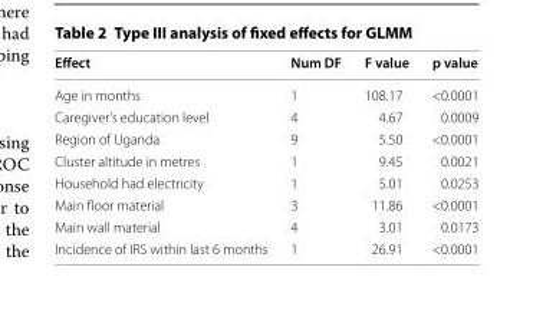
<table><thead><tr><td>Effect</td><td>Num DF</td><td>F value</td><td>p value</td></tr></thead><tbody><tr><td>Age in months</td><td>1</td><td>108.17</td><td>&lt;0.0001</td></tr><tr><td>Caregiver’s education level</td><td>4</td><td>4.67</td><td>0.0009</td></tr><tr><td>Region of Uganda</td><td>9</td><td>5.50</td><td>&lt;0.0001</td></tr><tr><td>Cluster altitude in metres</td><td>1</td><td>9.45</td><td>0.0021</td></tr><tr><td>Household had electricity</td><td>1</td><td>5.01</td><td>0.0253</td></tr><tr><td>Main floor material</td><td>3</td><td>11.86</td><td>&lt;0.0001</td></tr><tr><td>Main wall material</td><td>4</td><td>3.01</td><td>0.0173</td></tr><tr><td>Incidence of IRS within last 6 months</td><td>1</td><td>26.91</td><td>&lt;0.0001</td></tr></tbody></table>